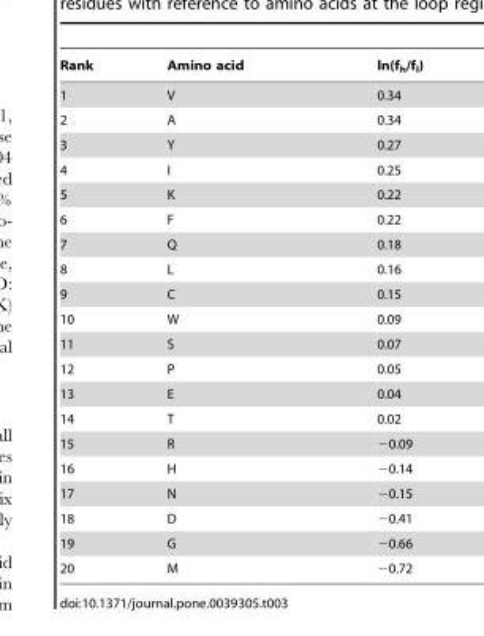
<table><thead><tr><td>Rank</td><td>Amino acid</td><td>ln(f<sub>h</sub>/f<sub>l</sub>)</td></tr></thead><tbody><tr><td>1</td><td>V</td><td>0.34</td></tr><tr><td>2</td><td>A</td><td>0.34</td></tr><tr><td>3</td><td>Y</td><td>0.27</td></tr><tr><td>4</td><td>I</td><td>0.25</td></tr><tr><td>5</td><td>K</td><td>0.22</td></tr><tr><td>6</td><td>F</td><td>0.22</td></tr><tr><td>7</td><td>Q</td><td>0.18</td></tr><tr><td>8</td><td>L</td><td>0.16</td></tr><tr><td>9</td><td>C</td><td>0.15</td></tr><tr><td>10</td><td>W</td><td>0.09</td></tr><tr><td>11</td><td>S</td><td>0.07</td></tr><tr><td>12</td><td>P</td><td>0.05</td></tr><tr><td>13</td><td>E</td><td>0.04</td></tr><tr><td>14</td><td>T</td><td>0.02</td></tr><tr><td>15</td><td>R</td><td>−0.09</td></tr><tr><td>16</td><td>H</td><td>−0.14</td></tr><tr><td>17</td><td>N</td><td>−0.15</td></tr><tr><td>18</td><td>D</td><td>−0.41</td></tr><tr><td>19</td><td>G</td><td>−0.66</td></tr><tr><td>20</td><td>M</td><td>−0.72</td></tr></tbody></table>